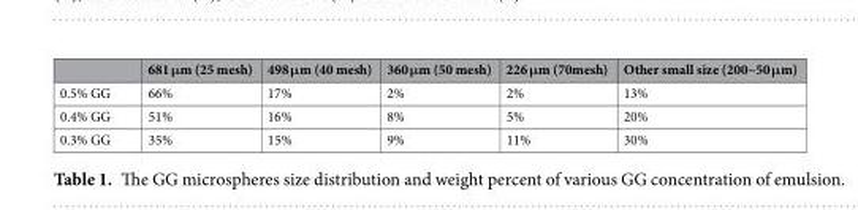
<table><thead><tr><td></td><td>681 μm (25 mesh)</td><td>498 μm (40 mesh)</td><td>360 μm (50 mesh)</td><td>226 μm (70mesh)</td><td>Other small size (200~50 μm)</td></tr></thead><tbody><tr><td>0.5% GG</td><td>66%</td><td>17%</td><td>2%</td><td>2%</td><td>13%</td></tr><tr><td>0.4% GG</td><td>51%</td><td>16%</td><td>8%</td><td>5%</td><td>20%</td></tr><tr><td>0.3% GG</td><td>35%</td><td>15%</td><td>9%</td><td>11%</td><td>30%</td></tr></tbody></table>